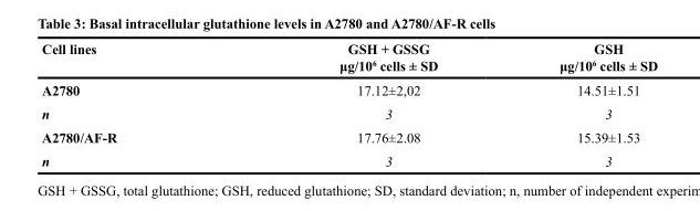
<table><thead><tr><td>Cell lines</td><td>GSH + GSSG μg/10<sup>6</sup> cells ± SD</td><td>GSH μg/10<sup>6</sup> cells ± SD</td></tr></thead><tbody><tr><td>A2780</td><td>17.12±2,02</td><td>14.51±1.51</td></tr><tr><td>n</td><td>3</td><td>3</td></tr><tr><td>A2780/AF-R</td><td>17.76±2.08</td><td>15.39±1.53</td></tr><tr><td>n</td><td>3</td><td>3</td></tr></tbody></table>